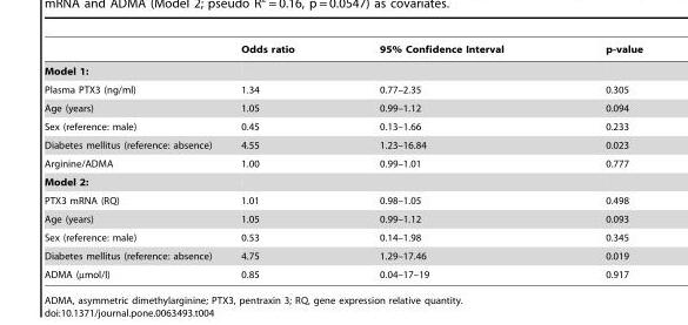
<table><thead><tr><td></td><td>Odds ratio</td><td>95% Confidence Interval</td><td>p-value</td></tr></thead><tbody><tr><td colspan="4">Model 1:</td></tr><tr><td>Plasma PTX3 (ng/ml)</td><td>1.34</td><td>0.77–2.35</td><td>0.305</td></tr><tr><td>Age (years)</td><td>1.05</td><td>0.99–1.12</td><td>0.094</td></tr><tr><td>Sex (reference: male)</td><td>0.45</td><td>0.13–1.66</td><td>0.233</td></tr><tr><td>Diabetes mellitus (reference: absence)</td><td>4.55</td><td>1.23–16.84</td><td>0.023</td></tr><tr><td>Arginine/ADMA</td><td>1.00</td><td>0.99–1.01</td><td>0.777</td></tr><tr><td colspan="4">Model 2:</td></tr><tr><td>PTX3 mRNA (RQ)</td><td>1.01</td><td>0.98–1.05</td><td>0.498</td></tr><tr><td>Age (years)</td><td>1.05</td><td>0.99–1.12</td><td>0.093</td></tr><tr><td>Sex (reference: male)</td><td>0.53</td><td>0.14–1.98</td><td>0.345</td></tr><tr><td>Diabetes mellitus (reference: absence)</td><td>4.75</td><td>1.29–17.46</td><td>0.019</td></tr><tr><td>ADMA (µmol/l)</td><td>0.85</td><td>0.04–17–19</td><td>0.917</td></tr></tbody></table>